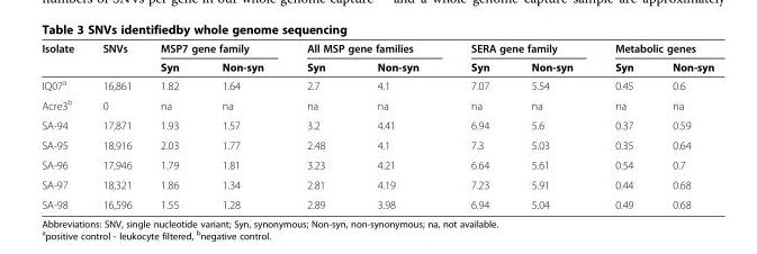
<table><thead><tr><td rowspan="2">Isolate</td><td rowspan="2">SNVs</td><td colspan="2">MSP7 gene family</td><td colspan="2">All MSP gene families</td><td colspan="2">SERA gene family</td><td colspan="2">Metabolic genes</td></tr><tr><td>Syn</td><td>Non-syn</td><td>Syn</td><td>Non-syn</td><td>Syn</td><td>Non-syn</td><td>Syn</td><td>Non-syn</td></tr></thead><tbody><tr><td>IQ07<sup>a</sup></td><td>16,861</td><td>1.82</td><td>1.64</td><td>2.7</td><td>4.1</td><td>7.07</td><td>5.54</td><td>0.45</td><td>0.6</td></tr><tr><td>Acre3<sup>b</sup></td><td>0</td><td>na</td><td>na</td><td>na</td><td>na</td><td>na</td><td>na</td><td>na</td><td>na</td></tr><tr><td>SA-94</td><td>17,871</td><td>1.93</td><td>1.57</td><td>3.2</td><td>4.41</td><td>6.94</td><td>5.6</td><td>0.37</td><td>0.59</td></tr><tr><td>SA-95</td><td>18,916</td><td>2.03</td><td>1.77</td><td>2.48</td><td>4.1</td><td>7.3</td><td>5.03</td><td>0.35</td><td>0.64</td></tr><tr><td>SA-96</td><td>17,946</td><td>1.79</td><td>1.81</td><td>3.23</td><td>4.21</td><td>6.64</td><td>5.61</td><td>0.54</td><td>0.7</td></tr><tr><td>SA-97</td><td>18,321</td><td>1.86</td><td>1.34</td><td>2.81</td><td>4.19</td><td>7.23</td><td>5.91</td><td>0.44</td><td>0.68</td></tr><tr><td>SA-98</td><td>16,596</td><td>1.55</td><td>1.28</td><td>2.89</td><td>3.98</td><td>6.94</td><td>5.04</td><td>0.49</td><td>0.68</td></tr></tbody></table>